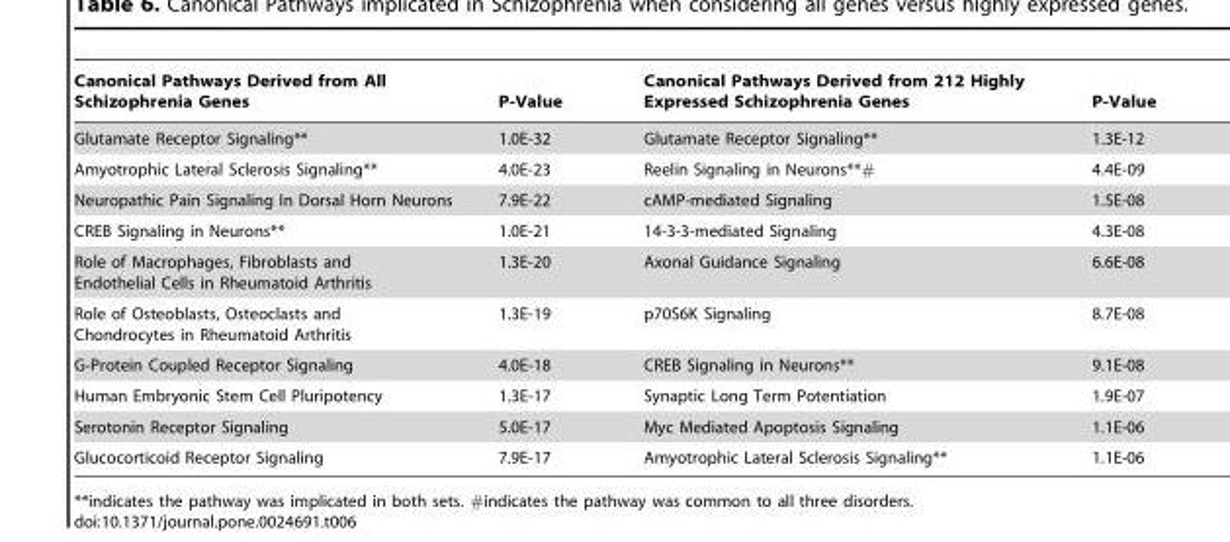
<table><thead><tr><td>Canonical Pathways Derived from All Schizophrenia Genes</td><td>P-Value</td><td>Canonical Pathways Derived from 212 Highly Expressed Schizophrenia Genes</td><td>P-Value</td></tr></thead><tbody><tr><td>Glutamate Receptor Signaling**</td><td>1.0E-32</td><td>Glutamate Receptor Signaling**</td><td>1.3E-12</td></tr><tr><td>Amyotrophic Lateral Sclerosis Signaling**</td><td>4.0E-23</td><td>Reelin Signaling in Neurons**#</td><td>4.4E-09</td></tr><tr><td>Neuropathic Pain Signaling In Dorsal Horn Neurons</td><td>7.9E-22</td><td>cAMP-mediated Signaling</td><td>1.5E-08</td></tr><tr><td>CREB Signaling in Neurons**</td><td>1.0E-21</td><td>14-3-3-mediated Signaling</td><td>4.3E-08</td></tr><tr><td>Role of Macrophages, Fibroblasts and Endothelial Cells in Rheumatoid Arthritis</td><td>1.3E-20</td><td>Axonal Guidance Signaling</td><td>6.6E-08</td></tr><tr><td>Role of Osteoblasts, Osteoclasts and Chondrocytes in Rheumatoid Arthritis</td><td>1.3E-19</td><td>p70S6K Signaling</td><td>8.7E-08</td></tr><tr><td>G-Protein Coupled Receptor Signaling</td><td>4.0E-18</td><td>CREB Signaling in Neurons**</td><td>9.1E-08</td></tr><tr><td>Human Embryonic Stem Cell Pluripotency</td><td>1.3E-17</td><td>Synaptic Long Term Potentiation</td><td>1.9E-07</td></tr><tr><td>Serotonin Receptor Signaling</td><td>5.0E-17</td><td>Myc Mediated Apoptosis Signaling</td><td>1.1E-06</td></tr><tr><td>Glucocorticoid Receptor Signaling</td><td>7.9E-17</td><td>Amyotrophic Lateral Sclerosis Signaling**</td><td>1.1E-06</td></tr></tbody></table>